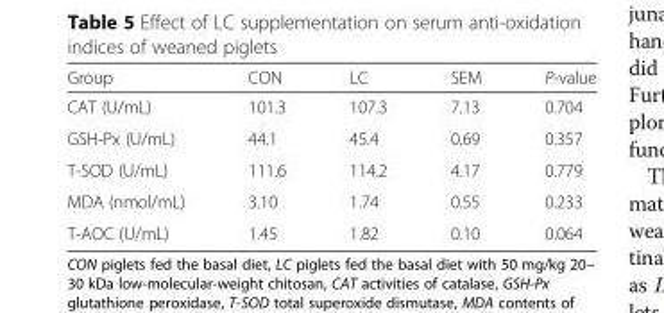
<table><thead><tr><td>Group</td><td>CON</td><td>LC</td><td>SEM</td><td>P-value</td></tr></thead><tbody><tr><td>CAT (U/mL)</td><td>101.3</td><td>107.3</td><td>7.13</td><td>0.704</td></tr><tr><td>GSH-Px (U/mL)</td><td>44.1</td><td>45.4</td><td>0.69</td><td>0.357</td></tr><tr><td>T-SOD (U/mL)</td><td>111.6</td><td>114.2</td><td>4.17</td><td>0.779</td></tr><tr><td>MDA (nmol/mL)</td><td>3.10</td><td>1.74</td><td>0.55</td><td>0.233</td></tr><tr><td>T-AOC (U/mL)</td><td>1.45</td><td>1.82</td><td>0.10</td><td>0.064</td></tr></tbody></table>